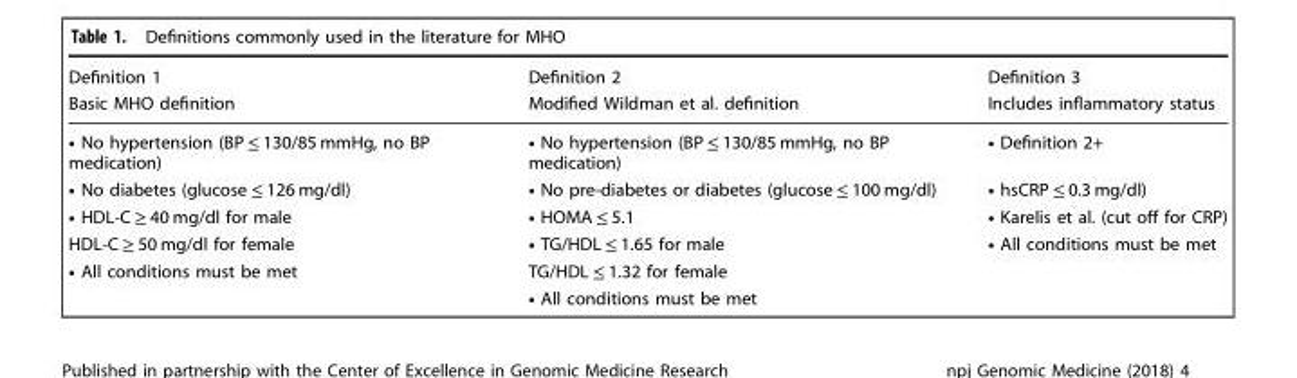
<table><thead><tr><td rowspan="2">Definition 1 Basic MHO definition</td><td rowspan="2">Definition 2 Modified Wildman et al. definition</td><td rowspan="2">Definition 3 Includes inflammatory status</td></tr><tr></tr></thead><tbody><tr><td>∙ No hypertension (BP ≤ 130/85 mmHg, no BP medication)</td><td>∙ No hypertension (BP ≤ 130/85 mmHg, no BP medication)</td><td>∙ Definition 2+</td></tr><tr><td>∙ No diabetes (glucose ≤ 126 mg/dl)</td><td>∙ No pre-diabetes or diabetes (glucose ≤ 100 mg/dl)</td><td>∙ hsCRP ≤ 0.3 mg/dl)</td></tr><tr><td>∙ HDL-C ≥ 40 mg/dl for male</td><td>∙ HOMA ≤ 5.1</td><td>∙ Karelis et al. (cut off for CRP)</td></tr><tr><td>HDL-C ≥ 50 mg/dl for female</td><td>∙ TG/HDL ≤ 1.65 for male</td><td>∙ All conditions must be met</td></tr><tr><td rowspan="2">∙ All conditions must be met</td><td>TG/HDL ≤ 1.32 for female</td><td></td></tr><tr><td>∙ All conditions must be met</td><td></td></tr></tbody></table>